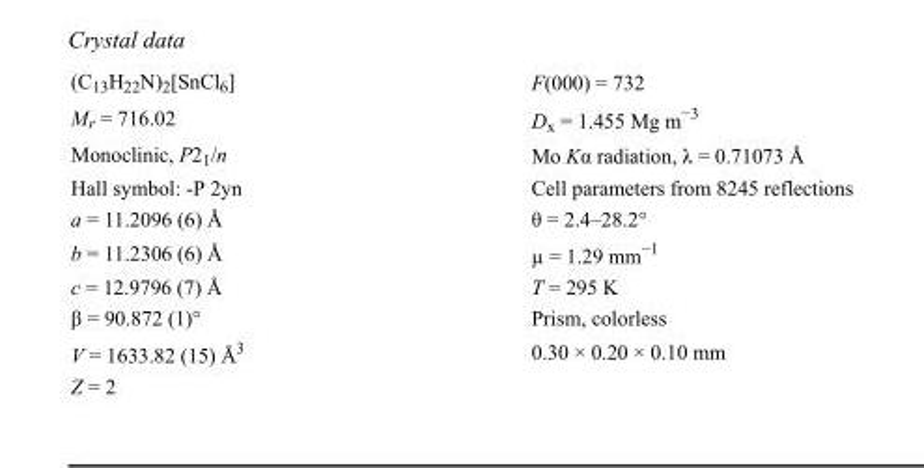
<table><tbody><tr><td>(C<sub>13</sub>H<sub>22</sub>N)<sub>2</sub>[SnCl<sub>6</sub>]</td><td>F(000) = 732</td></tr><tr><td>M<sub>r</sub> = 716.02</td><td>D<sub>x</sub> = 1.455 Mg m<sup>−3</sup></td></tr><tr><td>Monoclinic, P2<sub>1</sub>/n</td><td>Mo Kα radiation, λ = 0.71073 Å</td></tr><tr><td>Hall symbol: -P 2yn</td><td>Cell parameters from 8245 reflections</td></tr><tr><td>a = 11.2096 (6) Å</td><td>θ = 2.4–28.2°</td></tr><tr><td>b = 11.2306 (6) Å</td><td>µ = 1.29 mm<sup>−1</sup></td></tr><tr><td>c = 12.9796 (7) Å</td><td>T = 295 K</td></tr><tr><td>β = 90.872 (1)°</td><td>Prism, colorless</td></tr><tr><td>V = 1633.82 (15) Å<sup>3</sup></td><td>0.30 × 0.20 × 0.10 mm</td></tr><tr><td>Z = 2</td><td></td></tr></tbody></table>